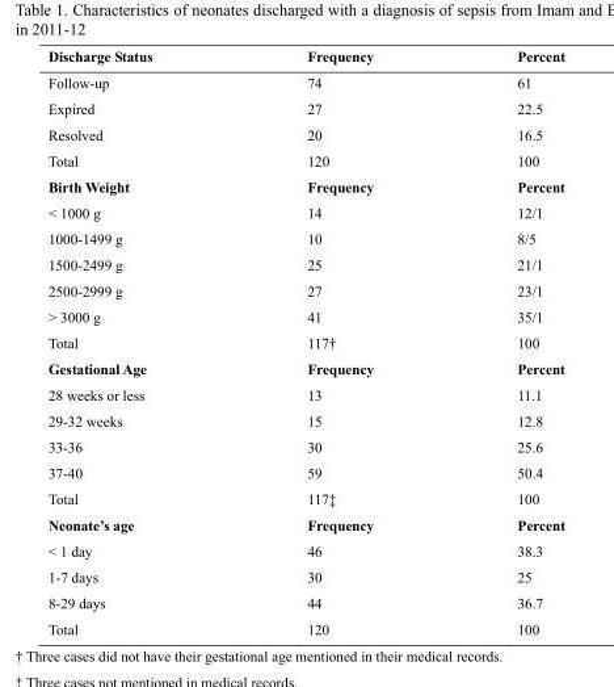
<table><thead><tr><td>Discharge Status</td><td>Frequency</td><td>Percent</td></tr></thead><tbody><tr><td>Follow-up</td><td>74</td><td>61</td></tr><tr><td>Expired</td><td>27</td><td>22.5</td></tr><tr><td>Resolved</td><td>20</td><td>16.5</td></tr><tr><td>Total</td><td>120</td><td>100</td></tr><tr><td>Birth Weight</td><td>Frequency</td><td>Percent</td></tr><tr><td>&lt; 1000 g</td><td>14</td><td>12/1</td></tr><tr><td>1000-1499 g</td><td>10</td><td>8/5</td></tr><tr><td>1500-2499 g</td><td>25</td><td>21/1</td></tr><tr><td>2500-2999 g</td><td>27</td><td>23/1</td></tr><tr><td>&gt; 3000 g</td><td>41</td><td>35/1</td></tr><tr><td>Total</td><td>117†</td><td>100</td></tr><tr><td>Gestational Age</td><td>Frequency</td><td>Percent</td></tr><tr><td>28 weeks or less</td><td>13</td><td>11.1</td></tr><tr><td>29-32 weeks</td><td>15</td><td>12.8</td></tr><tr><td>33-36</td><td>30</td><td>25.6</td></tr><tr><td>37-40</td><td>59</td><td>50.4</td></tr><tr><td>Total</td><td>117‡</td><td>100</td></tr><tr><td>Neonate’s age</td><td>Frequency</td><td>Percent</td></tr><tr><td>&lt; 1 day</td><td>46</td><td>38.3</td></tr><tr><td>1-7 days</td><td>30</td><td>25</td></tr><tr><td>8-29 days</td><td>44</td><td>36.7</td></tr><tr><td>Total</td><td>120</td><td>100</td></tr></tbody></table>